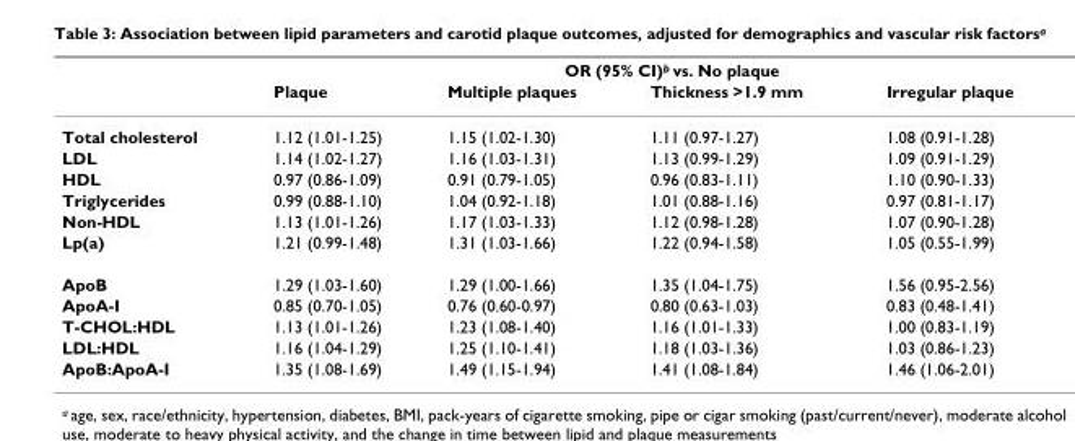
<table><thead><tr><td rowspan="2"></td><td colspan="4">OR (95% CI)<sup>b</sup> vs. No plaque</td></tr><tr><td>Plaque</td><td>Multiple plaques</td><td>Thickness &gt;1.9 mm</td><td>Irregular plaque</td></tr></thead><tbody><tr><td>Total cholesterol</td><td>1.12 (1.01-1.25)</td><td>1.15 (1.02-1.30)</td><td>1.11 (0.97-1.27)</td><td>1.08 (0.91-1.28)</td></tr><tr><td>LDL</td><td>1.14 (1.02-1.27)</td><td>1.16 (1.03-1.31)</td><td>1.13 (0.99-1.29)</td><td>1.09 (0.91-1.29)</td></tr><tr><td>HDL</td><td>0.97 (0.86-1.09)</td><td>0.91 (0.79-1.05)</td><td>0.96 (0.83-1.11)</td><td>1.10 (0.90-1.33)</td></tr><tr><td>Triglycerides</td><td>0.99 (0.88-1.10)</td><td>1.04 (0.92-1.18)</td><td>1.01 (0.88-1.16)</td><td>0.97 (0.81-1.17)</td></tr><tr><td>Non-HDL</td><td>1.13 (1.01-1.26)</td><td>1.17 (1.03-1.33)</td><td>1.12 (0.98-1.28)</td><td>1.07 (0.90-1.28)</td></tr><tr><td>Lp(a)</td><td>1.21 (0.99-1.48)</td><td>1.31 (1.03-1.66)</td><td>1.22 (0.94-1.58)</td><td>1.05 (0.55-1.99)</td></tr><tr><td>ApoB</td><td>1.29 (1.03-1.60)</td><td>1.29 (1.00-1.66)</td><td>1.35 (1.04-1.75)</td><td>1.56 (0.95-2.56)</td></tr><tr><td>ApoA-I</td><td>0.85 (0.70-1.05)</td><td>0.76 (0.60-0.97)</td><td>0.80 (0.63-1.03)</td><td>0.83 (0.48-1.41)</td></tr><tr><td>T-CHOL:HDL</td><td>1.13 (1.01-1.26)</td><td>1.23 (1.08-1.40)</td><td>1.16 (1.01-1.33)</td><td>1.00 (0.83-1.19)</td></tr><tr><td>LDL:HDL</td><td>1.16 (1.04-1.29)</td><td>1.25 (1.10-1.41)</td><td>1.18 (1.03-1.36)</td><td>1.03 (0.86-1.23)</td></tr><tr><td>ApoB:ApoA-I</td><td>1.35 (1.08-1.69)</td><td>1.49 (1.15-1.94)</td><td>1.41 (1.08-1.84)</td><td>1.46 (1.06-2.01)</td></tr></tbody></table>